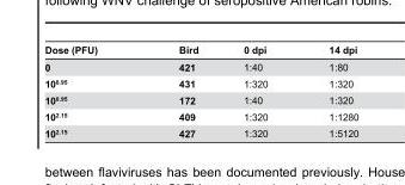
<table><thead><tr><td>Dose (PFU)</td><td>Bird</td><td>0 dpi</td><td>14 dpi</td></tr></thead><tbody><tr><td>0</td><td>421</td><td>1:40</td><td>1:80</td></tr><tr><td>10<sup>0.95</sup></td><td>431</td><td>1:320</td><td>1:320</td></tr><tr><td>10<sup>0.95</sup></td><td>172</td><td>1:40</td><td>1:320</td></tr><tr><td>10<sup>2.15</sup></td><td>409</td><td>1:320</td><td>1:1280</td></tr><tr><td>10<sup>2.15</sup></td><td>427</td><td>1:320</td><td>1:5120</td></tr></tbody></table>